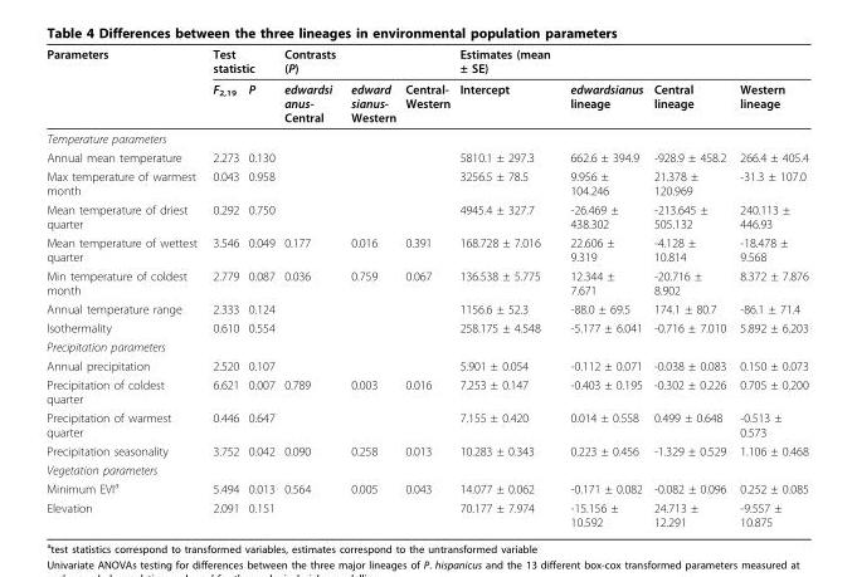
<table><thead><tr><td rowspan="2">Parameters</td><td colspan="2">Test statistic</td><td rowspan="2">Contrasts (P) edwardsi anus- Central</td><td rowspan="2">edward sianus- Western</td><td rowspan="2">Central- Western</td><td rowspan="2">Estimates (mean ± SE) Intercept</td><td rowspan="2">edwardsianus lineage</td><td rowspan="2">Central lineage</td><td rowspan="2">Western lineage</td></tr><tr><td>F<sub>2,19</sub></td><td>P</td></tr></thead><tbody><tr><td colspan="10">Temperature parameters</td></tr><tr><td>Annual mean temperature</td><td>2.273</td><td>0.130</td><td></td><td></td><td></td><td>5810.1 ± 297.3</td><td>662.6 ± 394.9</td><td>-928.9 ± 458.2</td><td>266.4 ± 405.4</td></tr><tr><td>Max temperature of warmest month</td><td>0.043</td><td>0.958</td><td></td><td></td><td></td><td>3256.5 ± 78.5</td><td>9.956 ± 104.246</td><td>21.378 ± 120.969</td><td>-31.3 ± 107.0</td></tr><tr><td>Mean temperature of driest quarter</td><td>0.292</td><td>0.750</td><td></td><td></td><td></td><td>4945.4 ± 327.7</td><td>-26.469 ± 438.302</td><td>-213.645 ± 505.132</td><td>240.113 ± 446.93</td></tr><tr><td>Mean temperature of wettest quarter</td><td>3.546</td><td>0.049</td><td>0.177</td><td>0.016</td><td>0.391</td><td>168.728 ± 7.016</td><td>22.606 ± 9.319</td><td>-4.128 ± 10.814</td><td>-18.478 ± 9.568</td></tr><tr><td>Min temperature of coldest month</td><td>2.779</td><td>0.087</td><td>0.036</td><td>0.759</td><td>0.067</td><td>136.538 ± 5.775</td><td>12.344 ± 7.671</td><td>-20.716 ± 8.902</td><td>8.372 ± 7.876</td></tr><tr><td>Annual temperature range</td><td>2.333</td><td>0.124</td><td></td><td></td><td></td><td>1156.6 ± 52.3</td><td>-88.0 ± 69.5</td><td>174.1 ± 80.7</td><td>-86.1 ± 71.4</td></tr><tr><td>Isothermality</td><td>0.610</td><td>0.554</td><td></td><td></td><td></td><td>258.175 ± 4.548</td><td>-5.177 ± 6.041</td><td>-0.716 ± 7.010</td><td>5.892 ± 6.203</td></tr><tr><td colspan="10">Precipitation parameters</td></tr><tr><td>Annual precipitation</td><td>2.520</td><td>0.107</td><td></td><td></td><td></td><td>5.901 ± 0.054</td><td>-0.112 ± 0.071</td><td>-0.038 ± 0.083</td><td>0.150 ± 0.073</td></tr><tr><td>Precipitation of coldest quarter</td><td>6.621</td><td>0.007</td><td>0.789</td><td>0.003</td><td>0.016</td><td>7.253 ± 0.147</td><td>-0.403 ± 0.195</td><td>-0.302 ± 0.226</td><td>0.705 ± 0.200</td></tr><tr><td>Precipitation of warmest quarter</td><td>0.446</td><td>0.647</td><td></td><td></td><td></td><td>7.155 ± 0.420</td><td>0.014 ± 0.558</td><td>0.499 ± 0.648</td><td>-0.513 ± 0.573</td></tr><tr><td>Precipitation seasonality</td><td>3.752</td><td>0.042</td><td>0.090</td><td>0.258</td><td>0.013</td><td>10.283 ± 0.343</td><td>0.223 ± 0.456</td><td>-1.329 ± 0.529</td><td>1.106 ± 0.468</td></tr><tr><td colspan="10">Vegetation parameters</td></tr><tr><td>Minimum EVI<sup>a</sup></td><td>5.494</td><td>0.013</td><td>0.564</td><td>0.005</td><td>0.043</td><td>14.077 ± 0.062</td><td>-0.171 ± 0.082</td><td>-0.082 ± 0.096</td><td>0.252 ± 0.085</td></tr><tr><td>Elevation</td><td>2.091</td><td>0.151</td><td></td><td></td><td></td><td>70.177 ± 7.974</td><td>-15.156 ± 10.592</td><td>24.713 ± 12.291</td><td>-9.557 ± 10.875</td></tr></tbody></table>